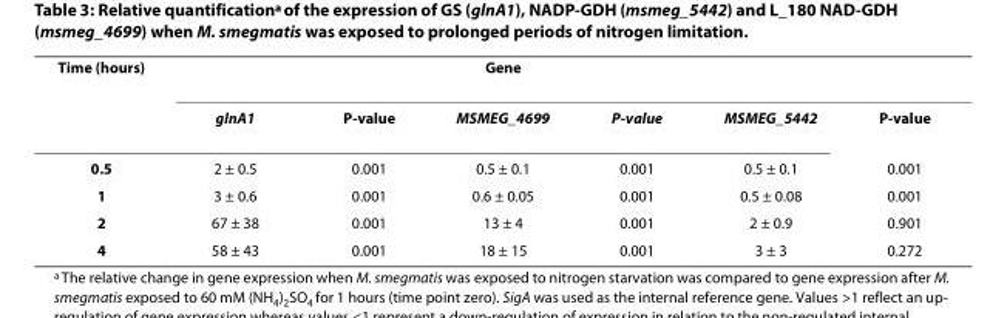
<table><tbody><tr><td rowspan="2">Time (hours)</td><td colspan="5">Gene</td><td></td></tr><tr><td>glnA1</td><td>P-value</td><td>MSMEG_4699</td><td>P-value</td><td>MSMEG_5442</td><td>P-value</td></tr><tr><td>0.5</td><td>2 ± 0.5</td><td>0.001</td><td>0.5 ± 0.1</td><td>0.001</td><td>0.5 ± 0.1</td><td>0.001</td></tr><tr><td>1</td><td>3 ± 0.6</td><td>0.001</td><td>0.6 ± 0.05</td><td>0.001</td><td>0.5 ± 0.08</td><td>0.001</td></tr><tr><td>2</td><td>67 ± 38</td><td>0.001</td><td>13 ± 4</td><td>0.001</td><td>2 ± 0.9</td><td>0.901</td></tr><tr><td>4</td><td>58 ± 43</td><td>0.001</td><td>18 ± 15</td><td>0.001</td><td>3 ± 3</td><td>0.272</td></tr></tbody></table>